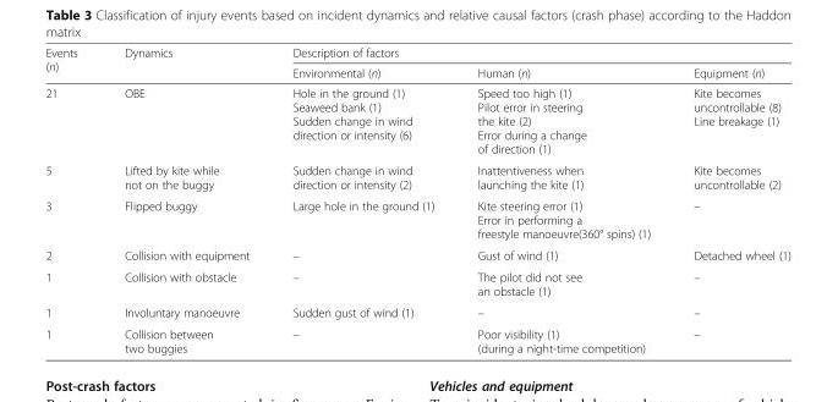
<table><thead><tr><td rowspan="2">Events (n)</td><td rowspan="2">Dynamics</td><td colspan="3">Description of factors</td></tr><tr><td>Environmental (n)</td><td>Human (n)</td><td>Equipment (n)</td></tr></thead><tbody><tr><td>21</td><td>OBE</td><td>Hole in the ground (1) Seaweed bank (1) Sudden change in wind direction or intensity (6)</td><td>Speed too high (1) Pilot error in steering the kite (2) Error during a change of direction (1)</td><td>Kite becomes uncontrollable (8) Line breakage (1)</td></tr><tr><td>5</td><td>Lifted by kite while not on the buggy</td><td>Sudden change in wind direction or intensity (2)</td><td>Inattentiveness when launching the kite (1)</td><td>Kite becomes uncontrollable (2)</td></tr><tr><td>3</td><td>Flipped buggy</td><td>Large hole in the ground (1)</td><td>Kite steering error (1) Error in performing a freestyle manoeuvre(360° spins) (1)</td><td>–</td></tr><tr><td>2</td><td>Collision with equipment</td><td>–</td><td>Gust of wind (1)</td><td>Detached wheel (1)</td></tr><tr><td>1</td><td>Collision with obstacle</td><td>–</td><td>The pilot did not see an obstacle (1)</td><td>–</td></tr><tr><td>1</td><td>Involuntary manoeuvre</td><td>Sudden gust of wind (1)</td><td>–</td><td>–</td></tr><tr><td>1</td><td>Collision between two buggies</td><td>–</td><td>Poor visibility (1) (during a night-time competition)</td><td>–</td></tr></tbody></table>